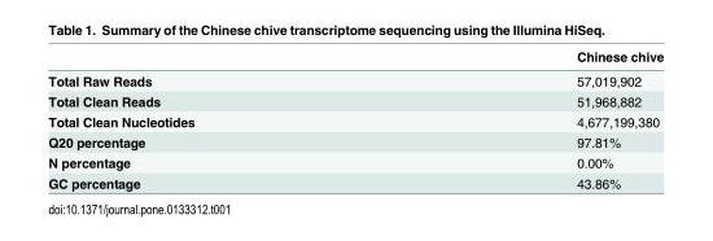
<table><thead><tr><td></td><td>Chinese chive</td></tr></thead><tbody><tr><td>Total Raw Reads</td><td>57,019,902</td></tr><tr><td>Total Clean Reads</td><td>51,968,882</td></tr><tr><td>Total Clean Nucleotides</td><td>4,677,199,380</td></tr><tr><td>Q20 percentage</td><td>97.81%</td></tr><tr><td>N percentage</td><td>0.00%</td></tr><tr><td>GC percentage</td><td>43.86%</td></tr></tbody></table>